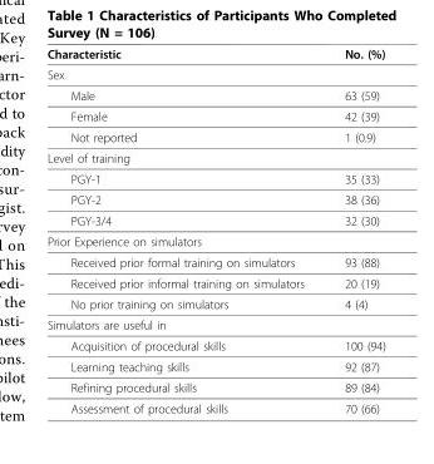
<table><thead><tr><td>Characteristic</td><td>No. (%)</td></tr></thead><tbody><tr><td colspan="2">Sex</td></tr><tr><td>Male</td><td>63 (59)</td></tr><tr><td>Female</td><td>42 (39)</td></tr><tr><td>Not reported</td><td>1 (0.9)</td></tr><tr><td colspan="2">Level of training</td></tr><tr><td>PGY-1</td><td>35 (33)</td></tr><tr><td>PGY-2</td><td>38 (36)</td></tr><tr><td>PGY-3/4</td><td>32 (30)</td></tr><tr><td colspan="2">Prior Experience on simulators</td></tr><tr><td>Received prior formal training on simulators</td><td>93 (88)</td></tr><tr><td>Received prior informal training on simulators</td><td>20 (19)</td></tr><tr><td>No prior training on simulators</td><td>4 (4)</td></tr><tr><td colspan="2">Simulators are useful in</td></tr><tr><td>Acquisition of procedural skills</td><td>100 (94)</td></tr><tr><td>Learning teaching skills</td><td>92 (87)</td></tr><tr><td>Refining procedural skills</td><td>89 (84)</td></tr><tr><td>Assessment of procedural skills</td><td>70 (66)</td></tr></tbody></table>